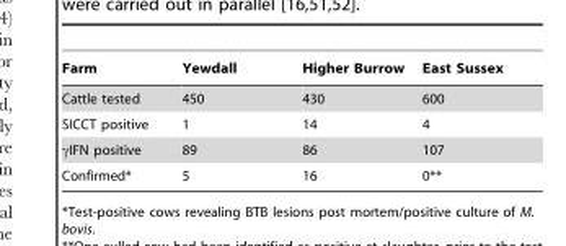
<table><thead><tr><td>Farm</td><td>Yewdall</td><td>Higher Burrow</td><td>East Sussex</td></tr></thead><tbody><tr><td>Cattle tested</td><td>450</td><td>430</td><td>600</td></tr><tr><td>SICCT positive</td><td>1</td><td>14</td><td>4</td></tr><tr><td>γIFN positive</td><td>89</td><td>86</td><td>107</td></tr><tr><td>Confirmed*</td><td>5</td><td>16</td><td>0**</td></tr></tbody></table>